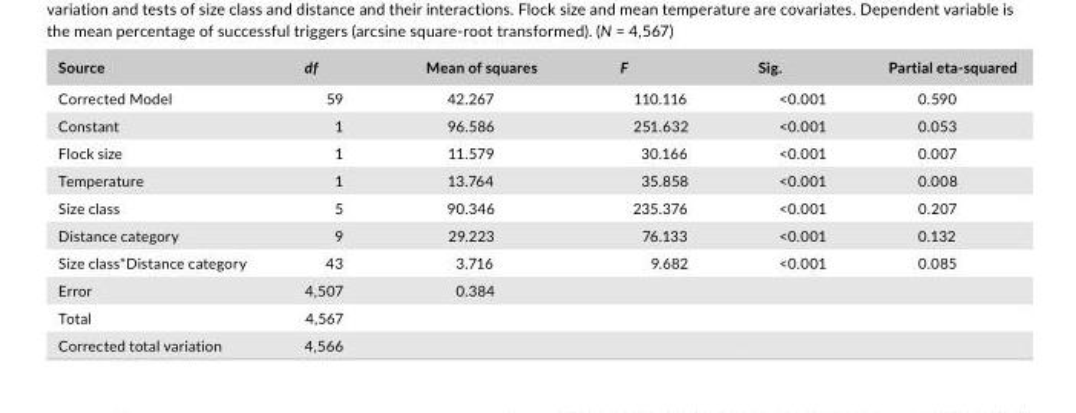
<table><thead><tr><td>Source</td><td>df</td><td>Mean of squares</td><td>F</td><td>Sig.</td><td>Partial eta- squared</td></tr></thead><tbody><tr><td>Corrected Model</td><td>59</td><td>42.267</td><td>110.116</td><td>&lt;0.001</td><td>0.590</td></tr><tr><td>Constant</td><td>1</td><td>96.586</td><td>251.632</td><td>&lt;0.001</td><td>0.053</td></tr><tr><td>Flock size</td><td>1</td><td>11.579</td><td>30.166</td><td>&lt;0.001</td><td>0.007</td></tr><tr><td>Temperature</td><td>1</td><td>13.764</td><td>35.858</td><td>&lt;0.001</td><td>0.008</td></tr><tr><td>Size class</td><td>5</td><td>90.346</td><td>235.376</td><td>&lt;0.001</td><td>0.207</td></tr><tr><td>Distance category</td><td>9</td><td>29.223</td><td>76.133</td><td>&lt;0.001</td><td>0.132</td></tr><tr><td>Size class*Distance category</td><td>43</td><td>3.716</td><td>9.682</td><td>&lt;0.001</td><td>0.085</td></tr><tr><td>Error</td><td>4,507</td><td>0.384</td><td></td><td></td><td></td></tr><tr><td>Total</td><td>4,567</td><td></td><td></td><td></td><td></td></tr><tr><td>Corrected total variation</td><td>4,566</td><td></td><td></td><td></td><td></td></tr></tbody></table>